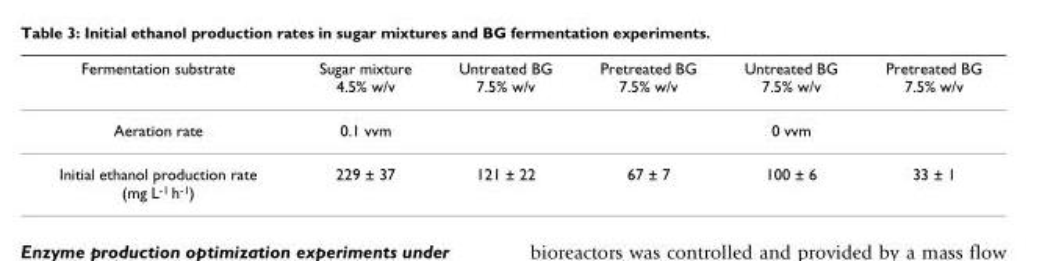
<table><thead><tr><td>Fermentation substrate</td><td>Sugar mixture 4.5% w/v</td><td>Untreated BG 7.5% w/v</td><td>Pretreated BG 7.5% w/v</td><td>Untreated BG 7.5% w/v</td><td>Pretreated BG 7.5% w/v</td></tr></thead><tbody><tr><td>Aeration rate</td><td>0.1 vvm</td><td></td><td></td><td>0 vvm</td><td></td></tr><tr><td>Initial ethanol production rate (mg L<sup>-1</sup> h<sup>-1</sup>)</td><td>229 ± 37</td><td>121 ± 22</td><td>67 ± 7</td><td>100 ± 6</td><td>33 ± 1</td></tr></tbody></table>